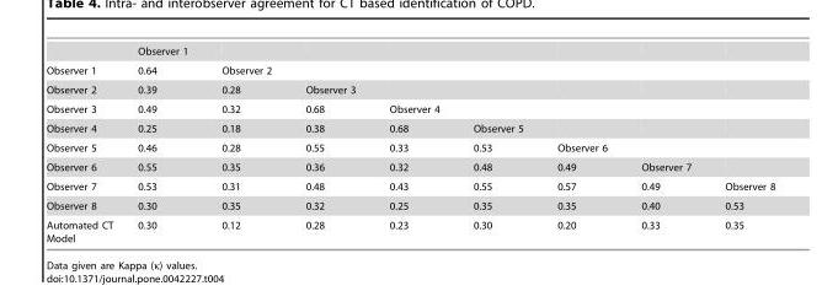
<table><thead><tr><td></td><td>Observer 1</td><td></td><td></td><td></td><td></td><td></td><td></td><td></td></tr></thead><tbody><tr><td>Observer 1</td><td>0.64</td><td>Observer 2</td><td></td><td></td><td></td><td></td><td></td><td></td></tr><tr><td>Observer 2</td><td>0.39</td><td>0.28</td><td>Observer 3</td><td></td><td></td><td></td><td></td><td></td></tr><tr><td>Observer 3</td><td>0.49</td><td>0.32</td><td>0.68</td><td>Observer 4</td><td></td><td></td><td></td><td></td></tr><tr><td>Observer 4</td><td>0.25</td><td>0.18</td><td>0.38</td><td>0.68</td><td>Observer 5</td><td></td><td></td><td></td></tr><tr><td>Observer 5</td><td>0.46</td><td>0.28</td><td>0.55</td><td>0.33</td><td>0.53</td><td>Observer 6</td><td></td><td></td></tr><tr><td>Observer 6</td><td>0.55</td><td>0.35</td><td>0.36</td><td>0.32</td><td>0.48</td><td>0.49</td><td>Observer 7</td><td></td></tr><tr><td>Observer 7</td><td>0.53</td><td>0.31</td><td>0.48</td><td>0.43</td><td>0.55</td><td>0.57</td><td>0.49</td><td>Observer 8</td></tr><tr><td>Observer 8</td><td>0.30</td><td>0.35</td><td>0.32</td><td>0.25</td><td>0.35</td><td>0.35</td><td>0.40</td><td>0.53</td></tr><tr><td>Automated CT Model</td><td>0.30</td><td>0.12</td><td>0.28</td><td>0.23</td><td>0.30</td><td>0.20</td><td>0.33</td><td>0.35</td></tr></tbody></table>